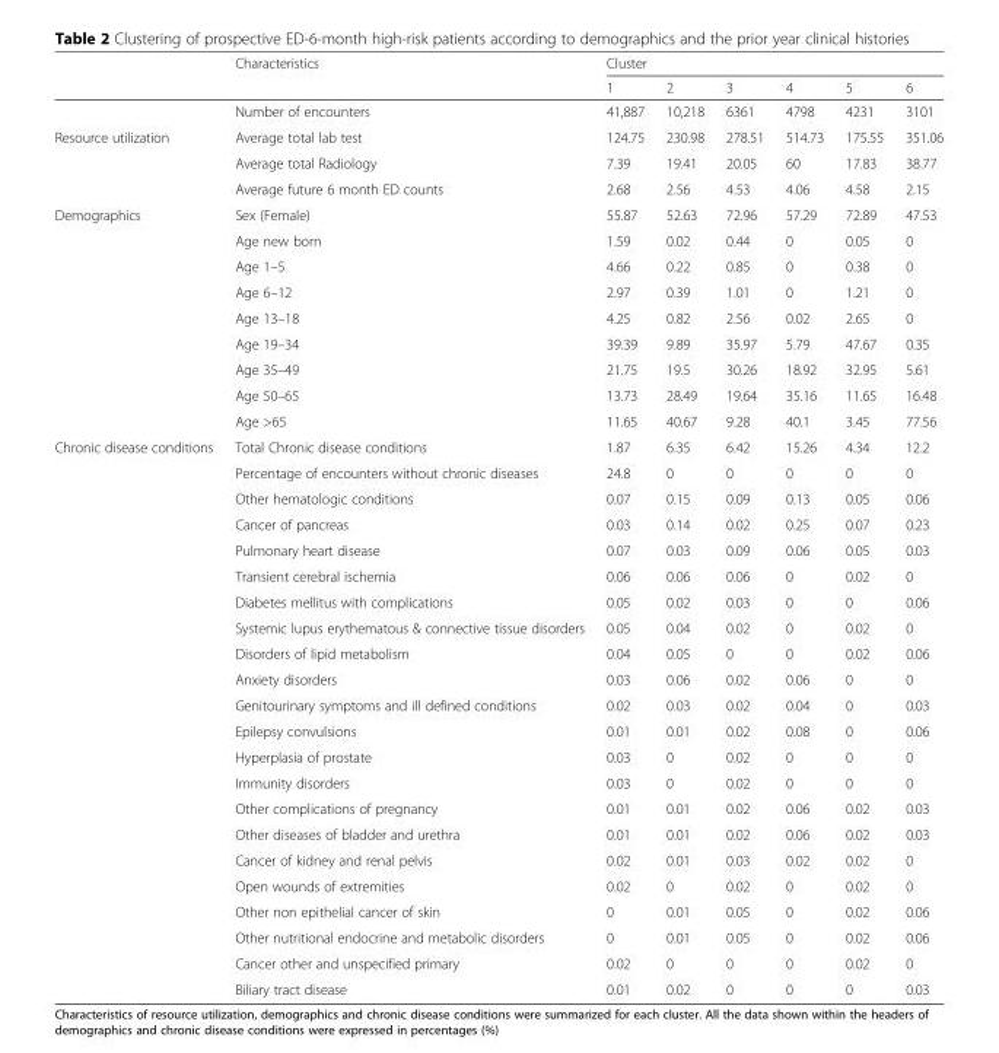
<table><thead><tr><td rowspan="2"></td><td rowspan="2">Characteristics</td><td colspan="6">Cluster</td></tr><tr><td>1</td><td>2</td><td>3</td><td>4</td><td>5</td><td>6</td></tr></thead><tbody><tr><td></td><td>Number of encounters</td><td>41,887</td><td>10,218</td><td>6361</td><td>4798</td><td>4231</td><td>3101</td></tr><tr><td rowspan="3">Resource utilization</td><td>Average total lab test</td><td>124.75</td><td>230.98</td><td>278.51</td><td>514.73</td><td>175.55</td><td>351.06</td></tr><tr><td>Average total Radiology</td><td>7.39</td><td>19.41</td><td>20.05</td><td>60</td><td>17.83</td><td>38.77</td></tr><tr><td>Average future 6 month ED counts</td><td>2.68</td><td>2.56</td><td>4.53</td><td>4.06</td><td>4.58</td><td>2.15</td></tr><tr><td rowspan="9">Demographics</td><td>Sex (Female)</td><td>55.87</td><td>52.63</td><td>72.96</td><td>57.29</td><td>72.89</td><td>47.53</td></tr><tr><td>Age new born</td><td>1.59</td><td>0.02</td><td>0.44</td><td>0</td><td>0.05</td><td>0</td></tr><tr><td>Age 1–5</td><td>4.66</td><td>0.22</td><td>0.85</td><td>0</td><td>0.38</td><td>0</td></tr><tr><td>Age 6–12</td><td>2.97</td><td>0.39</td><td>1.01</td><td>0</td><td>1.21</td><td>0</td></tr><tr><td>Age 13–18</td><td>4.25</td><td>0.82</td><td>2.56</td><td>0.02</td><td>2.65</td><td>0</td></tr><tr><td>Age 19–34</td><td>39.39</td><td>9.89</td><td>35.97</td><td>5.79</td><td>47.67</td><td>0.35</td></tr><tr><td>Age 35–49</td><td>21.75</td><td>19.5</td><td>30.26</td><td>18.92</td><td>32.95</td><td>5.61</td></tr><tr><td>Age 50–65</td><td>13.73</td><td>28.49</td><td>19.64</td><td>35.16</td><td>11.65</td><td>16.48</td></tr><tr><td>Age &gt;65</td><td>11.65</td><td>40.67</td><td>9.28</td><td>40.1</td><td>3.45</td><td>77.56</td></tr><tr><td rowspan="22">Chronic disease conditions</td><td>Total Chronic disease conditions</td><td>1.87</td><td>6.35</td><td>6.42</td><td>15.26</td><td>4.34</td><td>12.2</td></tr><tr><td>Percentage of encounters without chronic diseases</td><td>24.8</td><td>0</td><td>0</td><td>0</td><td>0</td><td>0</td></tr><tr><td>Other hematologic conditions</td><td>0.07</td><td>0.15</td><td>0.09</td><td>0.13</td><td>0.05</td><td>0.06</td></tr><tr><td>Cancer of pancreas</td><td>0.03</td><td>0.14</td><td>0.02</td><td>0.25</td><td>0.07</td><td>0.23</td></tr><tr><td>Pulmonary heart disease</td><td>0.07</td><td>0.03</td><td>0.09</td><td>0.06</td><td>0.05</td><td>0.03</td></tr><tr><td>Transient cerebral ischemia</td><td>0.06</td><td>0.06</td><td>0.06</td><td>0</td><td>0.02</td><td>0</td></tr><tr><td>Diabetes mellitus with complications</td><td>0.05</td><td>0.02</td><td>0.03</td><td>0</td><td>0</td><td>0.06</td></tr><tr><td>Systemic lupus erythematous &amp; connective tissue disorders</td><td>0.05</td><td>0.04</td><td>0.02</td><td>0</td><td>0.02</td><td>0</td></tr><tr><td>Disorders of lipid metabolism</td><td>0.04</td><td>0.05</td><td>0</td><td>0</td><td>0.02</td><td>0.06</td></tr><tr><td>Anxiety disorders</td><td>0.03</td><td>0.06</td><td>0.02</td><td>0.06</td><td>0</td><td>0</td></tr><tr><td>Genitourinary symptoms and ill defined conditions</td><td>0.02</td><td>0.03</td><td>0.02</td><td>0.04</td><td>0</td><td>0.03</td></tr><tr><td>Epilepsy convulsions</td><td>0.01</td><td>0.01</td><td>0.02</td><td>0.08</td><td>0</td><td>0.06</td></tr><tr><td>Hyperplasia of prostate</td><td>0.03</td><td>0</td><td>0.02</td><td>0</td><td>0</td><td>0</td></tr><tr><td>Immunity disorders</td><td>0.03</td><td>0</td><td>0.02</td><td>0</td><td>0</td><td>0</td></tr><tr><td>Other complications of pregnancy</td><td>0.01</td><td>0.01</td><td>0.02</td><td>0.06</td><td>0.02</td><td>0.03</td></tr><tr><td>Other diseases of bladder and urethra</td><td>0.01</td><td>0.01</td><td>0.02</td><td>0.06</td><td>0.02</td><td>0.03</td></tr><tr><td>Cancer of kidney and renal pelvis</td><td>0.02</td><td>0.01</td><td>0.03</td><td>0.02</td><td>0.02</td><td>0</td></tr><tr><td>Open wounds of extremities</td><td>0.02</td><td>0</td><td>0.02</td><td>0</td><td>0.02</td><td>0</td></tr><tr><td>Other non epithelial cancer of skin</td><td>0</td><td>0.01</td><td>0.05</td><td>0</td><td>0.02</td><td>0.06</td></tr><tr><td>Other nutritional endocrine and metabolic disorders</td><td>0</td><td>0.01</td><td>0.05</td><td>0</td><td>0.02</td><td>0.06</td></tr><tr><td>Cancer other and unspecified primary</td><td>0.02</td><td>0</td><td>0</td><td>0</td><td>0.02</td><td>0</td></tr><tr><td>Biliary tract disease</td><td>0.01</td><td>0.02</td><td>0</td><td>0</td><td>0</td><td>0.03</td></tr></tbody></table>